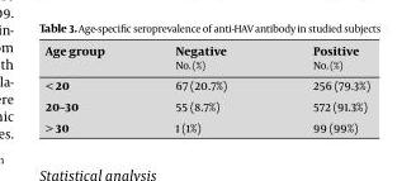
<table><thead><tr><td>Age group</td><td>Negative No. (%)</td><td>Positive No. (%)</td></tr></thead><tbody><tr><td>&lt; 20</td><td>67 (20.7%)</td><td>256 (79.3%)</td></tr><tr><td>20–30</td><td>55 (8.7%)</td><td>572 (91.3%)</td></tr><tr><td>&gt; 30</td><td>1 (1%)</td><td>99 (99%)</td></tr></tbody></table>